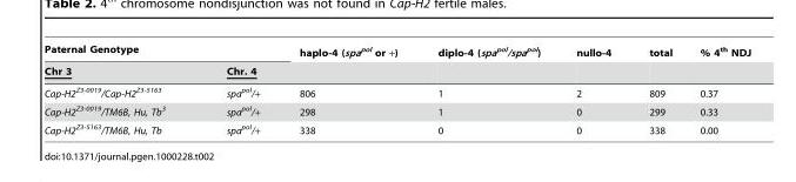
<table><thead><tr><td colspan="2">Paternal Genotype</td><td rowspan="2">haplo-4 (spa<sup>pol</sup> or +)</td><td rowspan="2">diplo-4 (spa<sup>pol</sup>/spa<sup>pol</sup>)</td><td rowspan="2">nullo-4</td><td rowspan="2">total</td><td rowspan="2">% 4<sup>th</sup> NDJ</td></tr><tr><td>Chr 3</td><td>Chr. 4</td></tr></thead><tbody><tr><td>Cap-H2<sup>Z3-0019</sup>/Cap-H2<sup>Z3-5163</sup></td><td>spa<sup>pol</sup>/+</td><td>806</td><td>1</td><td>2</td><td>809</td><td>0.37</td></tr><tr><td>Cap-H2<sup>Z3-0019</sup>/TM6B, Hu, Tb<sup>3</sup></td><td>spa<sup>pol</sup>/+</td><td>298</td><td>1</td><td>0</td><td>299</td><td>0.33</td></tr><tr><td>Cap-H2<sup>Z3-5163</sup>/TM6B, Hu, Tb</td><td>spa<sup>pol</sup>/+</td><td>338</td><td>0</td><td>0</td><td>338</td><td>0.00</td></tr></tbody></table>